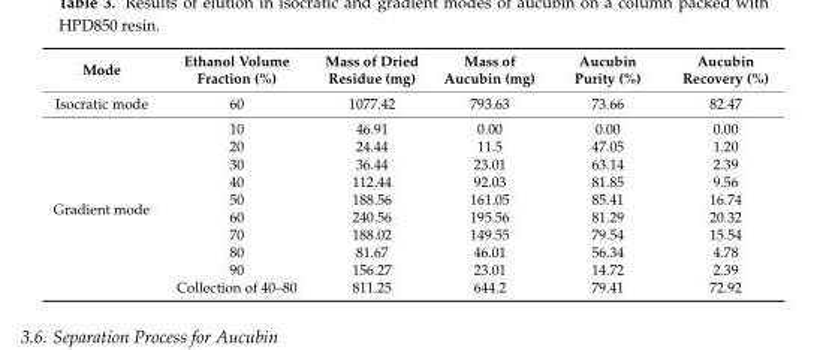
<table><thead><tr><td>Mode</td><td>Ethanol Volume Fraction (%)</td><td>Mass of Dried Residue (mg)</td><td>Mass of Aucubin (mg)</td><td>Aucubin Purity (%)</td><td>Aucubin Recovery (%)</td></tr></thead><tbody><tr><td>Isocratic mode</td><td>60</td><td>1077.42</td><td>793.63</td><td>73.66</td><td>82.47</td></tr><tr><td rowspan="10">Gradient mode</td><td>10</td><td>46.91</td><td>0.00</td><td>0.00</td><td>0.00</td></tr><tr><td>20</td><td>24.44</td><td>11.5</td><td>47.05</td><td>1.20</td></tr><tr><td>30</td><td>36.44</td><td>23.01</td><td>63.14</td><td>2.39</td></tr><tr><td>40</td><td>112.44</td><td>92.03</td><td>81.85</td><td>9.56</td></tr><tr><td>50</td><td>188.56</td><td>161.05</td><td>85.41</td><td>16.74</td></tr><tr><td>60</td><td>240.56</td><td>195.56</td><td>81.29</td><td>20.32</td></tr><tr><td>70</td><td>188.02</td><td>149.55</td><td>79.54</td><td>15.54</td></tr><tr><td>80</td><td>81.67</td><td>46.01</td><td>56.34</td><td>4.78</td></tr><tr><td>90</td><td>156.27</td><td>23.01</td><td>14.72</td><td>2.39</td></tr><tr><td>Collection of 40–80</td><td>811.25</td><td>644.2</td><td>79.41</td><td>72.92</td></tr></tbody></table>